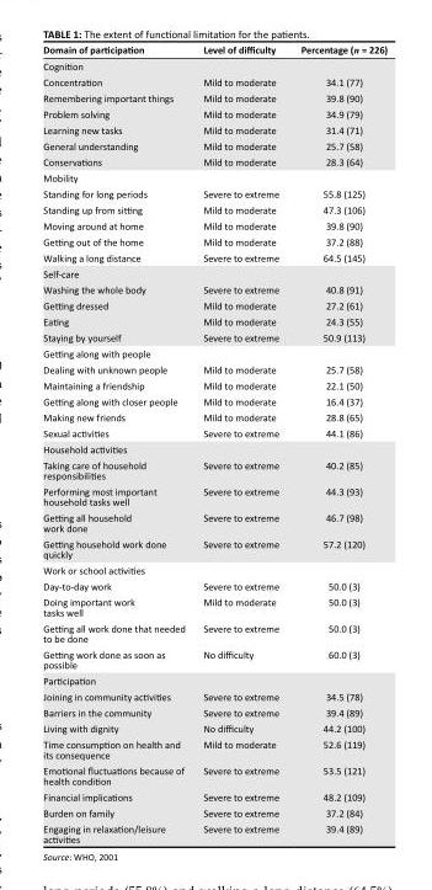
<table><thead><tr><td>Domain of participation</td><td>Level of difficulty</td><td>Percentage (n = 226)</td></tr></thead><tbody><tr><td colspan="3">Cognition</td></tr><tr><td>Concentration</td><td>Mild to moderate</td><td>34.1 (77)</td></tr><tr><td>Remembering important things</td><td>Mild to moderate</td><td>39.8 (90)</td></tr><tr><td>Problem solving</td><td>Mild to moderate</td><td>34.9 (79)</td></tr><tr><td>Learning new tasks</td><td>Mild to moderate</td><td>31.4 (71)</td></tr><tr><td>General understanding</td><td>Mild to moderate</td><td>25.7 (58)</td></tr><tr><td>Conservations</td><td>Mild to moderate</td><td>28.3 (64)</td></tr><tr><td colspan="3">Mobility</td></tr><tr><td>Standing for long periods</td><td>Severe to extreme</td><td>55.8 (125)</td></tr><tr><td>Standing up from sitting</td><td>Mild to moderate</td><td>47.3 (106)</td></tr><tr><td>Moving around at home</td><td>Mild to moderate</td><td>39.8 (90)</td></tr><tr><td>Getting out of the home</td><td>Mild to moderate</td><td>37.2 (88)</td></tr><tr><td>Walking a long distance</td><td>Severe to extreme</td><td>64.5 (145)</td></tr><tr><td colspan="3">Self-care</td></tr><tr><td>Washing the whole body</td><td>Severe to extreme</td><td>40.8 (91)</td></tr><tr><td>Getting dressed</td><td>Mild to moderate</td><td>27.2 (61)</td></tr><tr><td>Eating</td><td>Mild to moderate</td><td>24.3 (55)</td></tr><tr><td>Staying by yourself</td><td>Severe to extreme</td><td>50.9 (113)</td></tr><tr><td colspan="3">Getting along with people</td></tr><tr><td>Dealing with unknown people</td><td>Mild to moderate</td><td>25.7 (58)</td></tr><tr><td>Maintaining a friendship</td><td>Mild to moderate</td><td>22.1 (50)</td></tr><tr><td>Getting along with closer people</td><td>Mild to moderate</td><td>16.4 (37)</td></tr><tr><td>Making new friends</td><td>Mild to moderate</td><td>28.8 (65)</td></tr><tr><td>Sexual activities</td><td>Severe to extreme</td><td>44.1 (86)</td></tr><tr><td colspan="3">Household activities</td></tr><tr><td>Taking care of household responsibilities</td><td>Severe to extreme</td><td>40.2 (85)</td></tr><tr><td>Performing most important household tasks well</td><td>Severe to extreme</td><td>44.3 (93)</td></tr><tr><td>Getting all household work done</td><td>Severe to extreme</td><td>46.7 (98)</td></tr><tr><td>Getting household work done quickly</td><td>Severe to extreme</td><td>57.2 (120)</td></tr><tr><td colspan="3">Work or school activities</td></tr><tr><td>Day-to-day work</td><td>Severe to extreme</td><td>50.0 (3)</td></tr><tr><td>Doing important work tasks well</td><td>Mild to moderate</td><td>50.0 (3)</td></tr><tr><td>Getting all work done that needed to be done</td><td>Severe to extreme</td><td>50.0 (3)</td></tr><tr><td>Getting work done as soon as possible</td><td>No difficulty</td><td>60.0 (3)</td></tr><tr><td colspan="3">Participation</td></tr><tr><td>Joining in community activities</td><td>Severe to extreme</td><td>34.5 (78)</td></tr><tr><td>Barriers in the community</td><td>Severe to extreme</td><td>39.4 (89)</td></tr><tr><td>Living with dignity</td><td>No difficulty</td><td>44.2 (100)</td></tr><tr><td>Time consumption on health and its consequence</td><td>Mild to moderate</td><td>52.6 (119)</td></tr><tr><td>Emotional fluctuations because of health condition</td><td>Severe to extreme</td><td>53.5 (121)</td></tr><tr><td>Financial implications</td><td>Severe to extreme</td><td>48.2 (109)</td></tr><tr><td>Burden on family</td><td>Severe to extreme</td><td>37.2 (84)</td></tr><tr><td>Engaging in relaxation/leisure activities</td><td>Severe to extreme</td><td>39.4 (89)</td></tr></tbody></table>